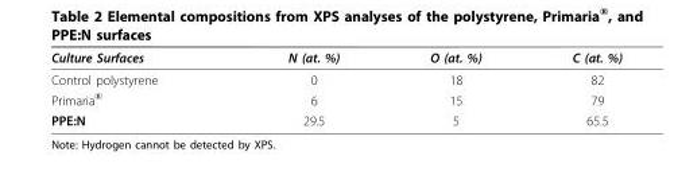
<table><thead><tr><td>Culture Surfaces</td><td>N (at. %)</td><td>O (at. %)</td><td>C (at. %)</td></tr></thead><tbody><tr><td>Control polystyrene</td><td>0</td><td>18</td><td>82</td></tr><tr><td>Primaria<sup>®</sup></td><td>6</td><td>15</td><td>79</td></tr><tr><td>PPE:N</td><td>29.5</td><td>5</td><td>65.5</td></tr></tbody></table>